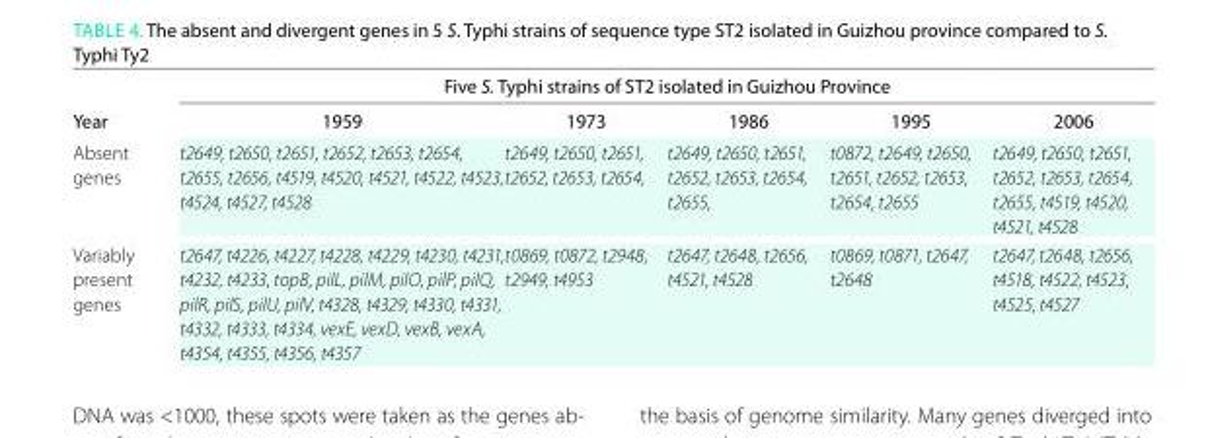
<table><thead><tr><td rowspan="2">Year</td><td colspan="5">Five S. typhi strains of st2 isolated in Guizhou Province</td></tr><tr><td>1959</td><td>1973</td><td>1986</td><td>1995</td><td>2006</td></tr></thead><tbody><tr><td>Absent genes</td><td>t2649, t2650, t2651, t2652, t2653, t2654, t2655, t2656, t4519, t4520, t4521, t4522, t4523, t4524, t4527, t4528</td><td>t2649, t2650, t2651, t2652, t2653, t2654,</td><td>t2649, t2650, t2651, t2652, t2653, t2654, t2655,</td><td>t0872, t2649, t2650, t2651, t2652, t2653, t2654, t2655</td><td>t2649, t2650, t2651, t2652, t2653, t2654, t2655, t4519, t4520, t4521, t4528</td></tr><tr><td>Variably present genes</td><td>t2647, t4226, t4227, t4228, t4229, t4230, t4231, t4232, t4233, topB, pilL, pilM, pilO, pilP, pilQ, pilR, pilS, pilU, pilV, t4328, t4329, t4330, t4331, t4332, t4333, t4334, vexE, vexD, vexB, vexA, t4354, t4355, t4356, t4357</td><td>t0869, t0872, t2948, t2949, t4953</td><td>t2647, t2648, t2656, t4521, t4528</td><td>t0869, t0871, t2647, t2648</td><td>t2647, t2648, t2656, t4518, t4522, t4523, t4525, t4527</td></tr></tbody></table>